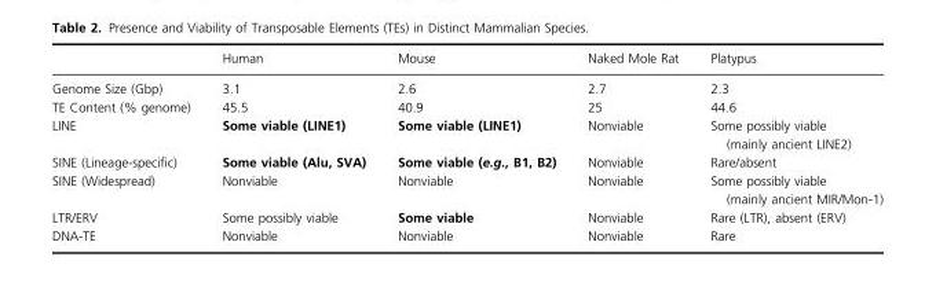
<table><thead><tr><td></td><td>Human</td><td>Mouse</td><td>Naked Mole Rat</td><td>Platypus</td></tr></thead><tbody><tr><td>Genome Size (Gbp)</td><td>3.1</td><td>2.6</td><td>2.7</td><td>2.3</td></tr><tr><td>TE Content (% genome)</td><td>45.5</td><td>40.9</td><td>25</td><td>44.6</td></tr><tr><td>LINE</td><td>Some viable (LINE1)</td><td>Some viable (LINE1)</td><td>Nonviable</td><td>Some possibly viable (mainly ancient LINE2)</td></tr><tr><td>SINE (Lineage-specific)</td><td>Some viable (Alu, SVA)</td><td>Some viable (e.g., B1, B2)</td><td>Nonviable</td><td>Rare/absent</td></tr><tr><td>SINE (Widespread)</td><td>Nonviable</td><td>Nonviable</td><td>Nonviable</td><td>Some possibly viable (mainly ancient MIR/Mon-1)</td></tr><tr><td>LTR/ERV</td><td>Some possibly viable</td><td>Some viable</td><td>Nonviable</td><td>Rare (LTR), absent (ERV)</td></tr><tr><td>DNA-TE</td><td>Nonviable</td><td>Nonviable</td><td>Nonviable</td><td>Rare</td></tr></tbody></table>